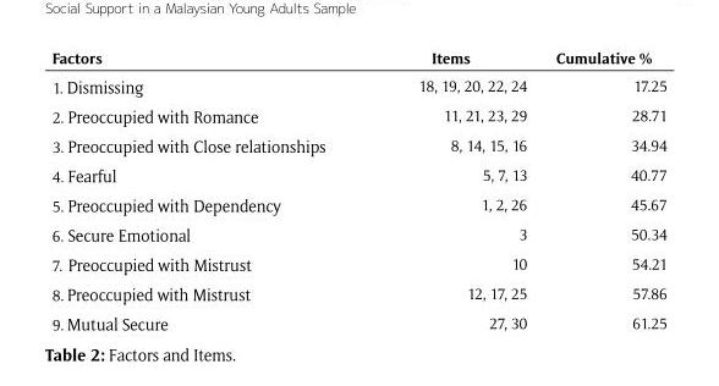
<table><thead><tr><td>Factors</td><td>Items</td><td>Cumulative %</td></tr></thead><tbody><tr><td>1. Dismissing</td><td>18, 19, 20, 22, 24</td><td>17.25</td></tr><tr><td>2. Preoccupied with Romance</td><td>11, 21, 23, 29</td><td>28.71</td></tr><tr><td>3. Preoccupied with Close relationships</td><td>8, 14, 15, 16</td><td>34.94</td></tr><tr><td>4. Fearful</td><td>5, 7, 13</td><td>40.77</td></tr><tr><td>5. Preoccupied with Dependency</td><td>1, 2, 26</td><td>45.67</td></tr><tr><td>6. Secure Emotional</td><td>3</td><td>50.34</td></tr><tr><td>7. Preoccupied with Mistrust</td><td>10</td><td>54.21</td></tr><tr><td>8. Preoccupied with Mistrust</td><td>12, 17, 25</td><td>57.86</td></tr><tr><td>9. Mutual Secure</td><td>27, 30</td><td>61.25</td></tr></tbody></table>